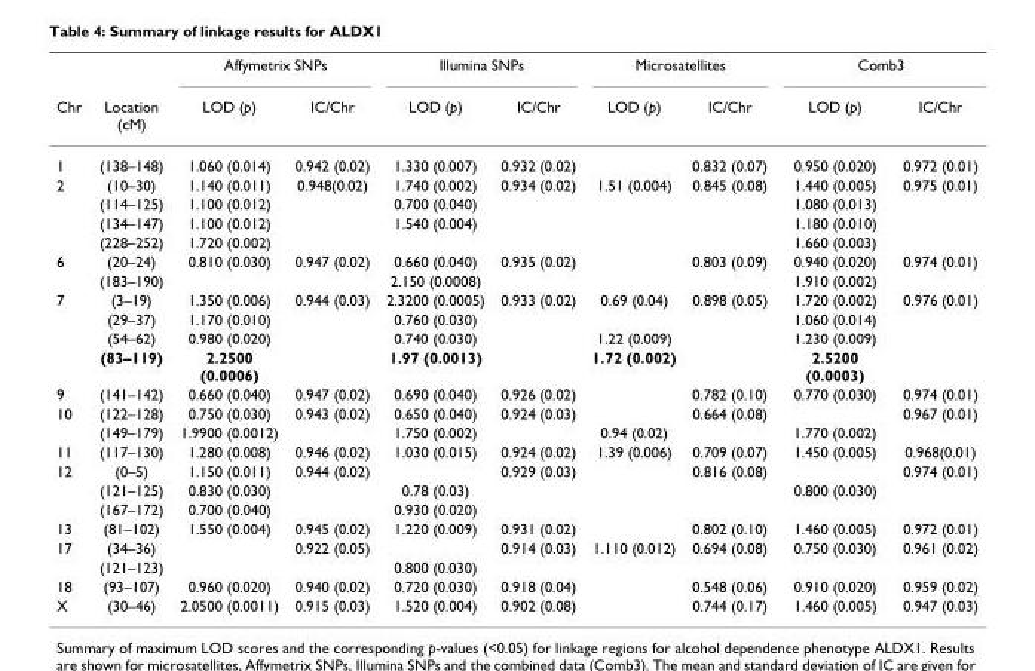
<table><thead><tr><td rowspan="2">Chr</td><td rowspan="2">Location (cM)</td><td colspan="2">Affymetrix SNPs</td><td colspan="2">Illumina SNPs</td><td colspan="2">Microsatellites</td><td colspan="2">Comb3</td></tr><tr><td>LOD (p)</td><td>IC/Chr</td><td>LOD (p)</td><td>IC/Chr</td><td>LOD (p)</td><td>IC/Chr</td><td>LOD (p)</td><td>IC/Chr</td></tr></thead><tbody><tr><td>1</td><td>(138–148)</td><td>1.060 (0.014)</td><td>0.942 (0.02)</td><td>1.330 (0.007)</td><td>0.932 (0.02)</td><td></td><td>0.832 (0.07)</td><td>0.950 (0.020)</td><td>0.972 (0.01)</td></tr><tr><td rowspan="4">2</td><td>(10–30)</td><td>1.140 (0.011)</td><td>0.948(0.02)</td><td>1.740 (0.002)</td><td>0.934 (0.02)</td><td>1.51 (0.004)</td><td>0.845 (0.08)</td><td>1.440 (0.005)</td><td>0.975 (0.01)</td></tr><tr><td>(114–125)</td><td>1.100 (0.012)</td><td></td><td>0.700 (0.040)</td><td></td><td></td><td></td><td>1.080 (0.013)</td><td></td></tr><tr><td>(134–147)</td><td>1.100 (0.012)</td><td></td><td>1.540 (0.004)</td><td></td><td></td><td></td><td>1.180 (0.010)</td><td></td></tr><tr><td>(228–252)</td><td>1.720 (0.002)</td><td></td><td></td><td></td><td></td><td></td><td>1.660 (0.003)</td><td></td></tr><tr><td rowspan="2">6</td><td>(20–24)</td><td>0.810 (0.030)</td><td>0.947 (0.02)</td><td>0.660 (0.040)</td><td>0.935 (0.02)</td><td></td><td>0.803 (0.09)</td><td>0.940 (0.020)</td><td>0.974 (0.01)</td></tr><tr><td>(183–190)</td><td></td><td></td><td>2.150 (0.0008)</td><td></td><td></td><td></td><td>1.910 (0.002)</td><td></td></tr><tr><td rowspan="4">7</td><td>(3–19)</td><td>1.350 (0.006)</td><td>0.944 (0.03)</td><td>2.3200 (0.0005)</td><td>0.933 (0.02)</td><td>0.69 (0.04)</td><td>0.898 (0.05)</td><td>1.720 (0.002)</td><td>0.976 (0.01)</td></tr><tr><td>(29–37)</td><td>1.170 (0.010)</td><td></td><td>0.760 (0.030)</td><td></td><td></td><td></td><td>1.060 (0.014)</td><td></td></tr><tr><td>(54–62)</td><td>0.980 (0.020)</td><td></td><td>0.740 (0.030)</td><td></td><td>1.22 (0.009)</td><td></td><td>1.230 (0.009)</td><td></td></tr><tr><td>(83–119)</td><td>2.2500 (0.0006)</td><td></td><td>1.97 (0.0013)</td><td></td><td>1.72 (0.002)</td><td></td><td>2.5200 (0.0003)</td><td></td></tr><tr><td>9</td><td>(141–142)</td><td>0.660 (0.040)</td><td>0.947 (0.02)</td><td>0.690 (0.040)</td><td>0.926 (0.02)</td><td></td><td>0.782 (0.10)</td><td>0.770 (0.030)</td><td>0.974 (0.01)</td></tr><tr><td rowspan="2">10</td><td>(122–128)</td><td>0.750 (0.030)</td><td>0.943 (0.02)</td><td>0.650 (0.040)</td><td>0.924 (0.03)</td><td></td><td>0.664 (0.08)</td><td></td><td>0.967 (0.01)</td></tr><tr><td>(149–179)</td><td>1.9900 (0.0012)</td><td></td><td>1.750 (0.002)</td><td></td><td>0.94 (0.02)</td><td></td><td>1.770 (0.002)</td><td></td></tr><tr><td>11</td><td>(117–130)</td><td>1.280 (0.008)</td><td>0.946 (0.02)</td><td>1.030 (0.015)</td><td>0.924 (0.02)</td><td>1.39 (0.006)</td><td>0.709 (0.07)</td><td>1.450 (0.005)</td><td>0.968(0.01)</td></tr><tr><td rowspan="3">12</td><td>(0–5)</td><td>1.150 (0.011)</td><td>0.944 (0.02)</td><td></td><td>0.929 (0.03)</td><td></td><td>0.816 (0.08)</td><td></td><td>0.974 (0.01)</td></tr><tr><td>(121–125)</td><td>0.830 (0.030)</td><td></td><td>0.78 (0.03)</td><td></td><td></td><td></td><td>0.800 (0.030)</td><td></td></tr><tr><td>(167–172)</td><td>0.700 (0.040)</td><td></td><td>0.930 (0.020)</td><td></td><td></td><td></td><td></td><td></td></tr><tr><td>13</td><td>(81–102)</td><td>1.550 (0.004)</td><td>0.945 (0.02)</td><td>1.220 (0.009)</td><td>0.931 (0.02)</td><td></td><td>0.802 (0.10)</td><td>1.460 (0.005)</td><td>0.972 (0.01)</td></tr><tr><td rowspan="2">17</td><td>(34–36)</td><td></td><td>0.922 (0.05)</td><td></td><td>0.914 (0.03)</td><td>1.110 (0.012)</td><td>0.694 (0.08)</td><td>0.750 (0.030)</td><td>0.961 (0.02)</td></tr><tr><td>(121–123)</td><td></td><td></td><td>0.800 (0.030)</td><td></td><td></td><td></td><td></td><td></td></tr><tr><td>18</td><td>(93–107)</td><td>0.960 (0.020)</td><td>0.940 (0.02)</td><td>0.720 (0.030)</td><td>0.918 (0.04)</td><td></td><td>0.548 (0.06)</td><td>0.910 (0.020)</td><td>0.959 (0.02)</td></tr><tr><td>X</td><td>(30–46)</td><td>2.0500 (0.0011)</td><td>0.915 (0.03)</td><td>1.520 (0.004)</td><td>0.902 (0.08)</td><td></td><td>0.744 (0.17)</td><td>1.460 (0.005)</td><td>0.947 (0.03)</td></tr></tbody></table>